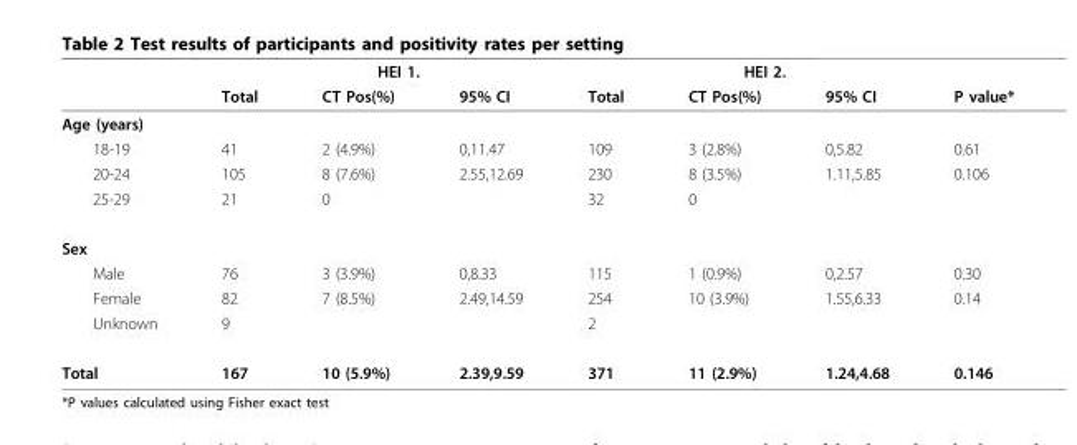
<table><thead><tr><td rowspan="2"></td><td colspan="3">HEI 1.</td><td colspan="3">HEI 2.</td><td rowspan="2">P value*</td></tr><tr><td>Total</td><td>CT Pos(%)</td><td>95% CI</td><td>Total</td><td>CT Pos(%)</td><td>95% CI</td></tr></thead><tbody><tr><td colspan="8">Age (years)</td></tr><tr><td>18-19</td><td>41</td><td>2 (4.9%)</td><td>0,11.47</td><td>109</td><td>3 (2.8%)</td><td>0,5.82</td><td>0.61</td></tr><tr><td>20-24</td><td>105</td><td>8 (7.6%)</td><td>2.55,12.69</td><td>230</td><td>8 (3.5%)</td><td>1.11,5.85</td><td>0.106</td></tr><tr><td>25-29</td><td>21</td><td>0</td><td></td><td>32</td><td>0</td><td></td><td></td></tr><tr><td colspan="8">Sex</td></tr><tr><td>Male</td><td>76</td><td>3 (3.9%)</td><td>0,8.33</td><td>115</td><td>1 (0.9%)</td><td>0,2.57</td><td>0.30</td></tr><tr><td>Female</td><td>82</td><td>7 (8.5%)</td><td>2.49,14.59</td><td>254</td><td>10 (3.9%)</td><td>1.55,6.33</td><td>0.14</td></tr><tr><td>Unknown</td><td>9</td><td></td><td></td><td>2</td><td></td><td></td><td></td></tr><tr><td>Total</td><td>167</td><td>10 (5.9%)</td><td>2.39,9.59</td><td>371</td><td>11 (2.9%)</td><td>1.24,4.68</td><td>0.146</td></tr></tbody></table>